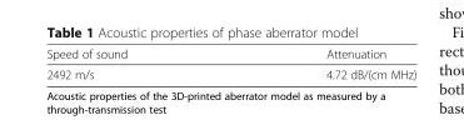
<table><thead><tr><td>Speed of sound</td><td>Attenuation</td></tr></thead><tbody><tr><td>2492 m/s</td><td>4.72 dB/(cm MHz)</td></tr></tbody></table>